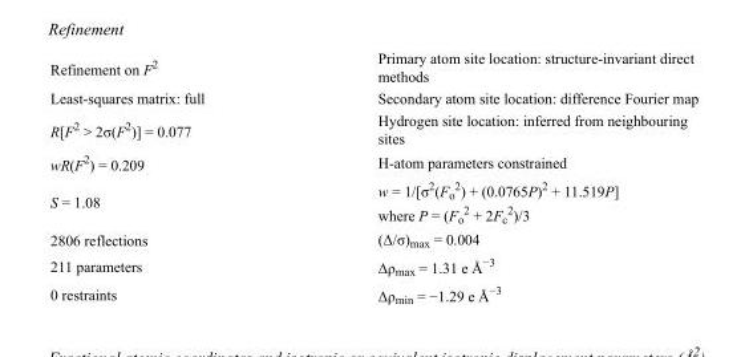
<table><tbody><tr><td>Refinement on F<sup>2</sup></td><td>Primary atom site location: structure-invariant direct methods</td></tr><tr><td>Least-squares matrix: full</td><td>Secondary atom site location: difference Fourier map</td></tr><tr><td>R[F<sup>2</sup> &gt; 2σ(F<sup>2</sup>)] = 0.077</td><td>Hydrogen site location: inferred from neighbouring sites</td></tr><tr><td>wR(F<sup>2</sup>) = 0.209</td><td>H-atom parameters constrained</td></tr><tr><td>S = 1.08</td><td>w = 1/[σ<sup>2</sup>(F<sub>o</sub> <sup>2</sup>) + (0.0765P)<sup>2</sup> + 11.519P] where P = (F<sub>o</sub> <sup>2</sup> + 2F<sub>c</sub> <sup>2</sup>)/3</td></tr><tr><td>2806 reflections</td><td>(Δ/σ)<sub>max</sub> = 0.004</td></tr><tr><td>211 parameters</td><td>Δρ<sub>max</sub> = 1.31 e Å<sup>−3</sup></td></tr><tr><td>0 restraints</td><td>Δρ<sub>min</sub> = −1.29 e Å<sup>−3</sup></td></tr></tbody></table>